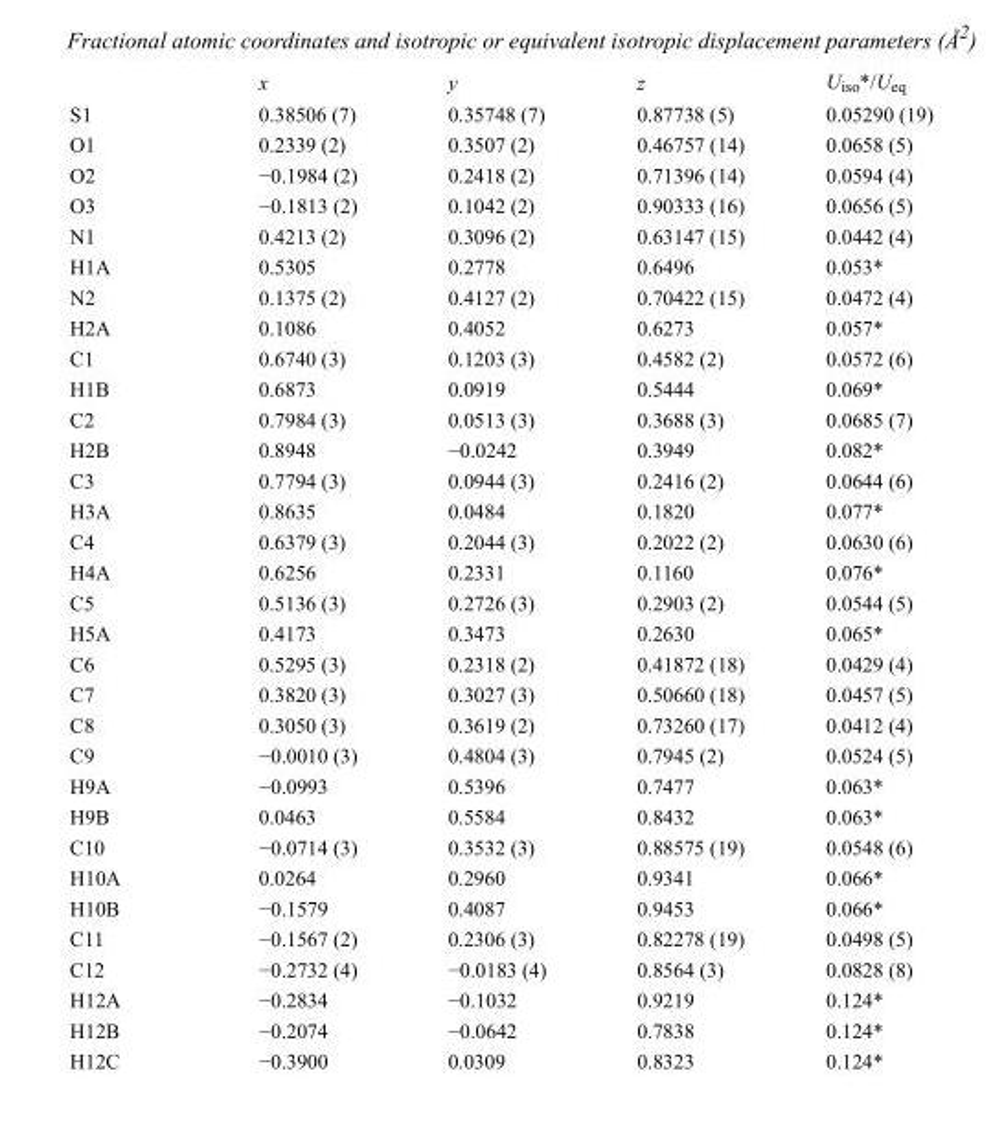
<table><thead><tr><td></td><td>x</td><td>y</td><td>z</td><td>U<sub>iso</sub>*/U<sub>eq</sub></td></tr></thead><tbody><tr><td>S1</td><td>0.38506 (7)</td><td>0.35748 (7)</td><td>0.87738 (5)</td><td>0.05290 (19)</td></tr><tr><td>O1</td><td>0.2339 (2)</td><td>0.3507 (2)</td><td>0.46757 (14)</td><td>0.0658 (5)</td></tr><tr><td>O2</td><td>−0.1984 (2)</td><td>0.2418 (2)</td><td>0.71396 (14)</td><td>0.0594 (4)</td></tr><tr><td>O3</td><td>−0.1813 (2)</td><td>0.1042 (2)</td><td>0.90333 (16)</td><td>0.0656 (5)</td></tr><tr><td>N1</td><td>0.4213 (2)</td><td>0.3096 (2)</td><td>0.63147 (15)</td><td>0.0442 (4)</td></tr><tr><td>H1A</td><td>0.5305</td><td>0.2778</td><td>0.6496</td><td>0.053*</td></tr><tr><td>N2</td><td>0.1375 (2)</td><td>0.4127 (2)</td><td>0.70422 (15)</td><td>0.0472 (4)</td></tr><tr><td>H2A</td><td>0.1086</td><td>0.4052</td><td>0.6273</td><td>0.057*</td></tr><tr><td>C1</td><td>0.6740 (3)</td><td>0.1203 (3)</td><td>0.4582 (2)</td><td>0.0572 (6)</td></tr><tr><td>H1B</td><td>0.6873</td><td>0.0919</td><td>0.5444</td><td>0.069*</td></tr><tr><td>C2</td><td>0.7984 (3)</td><td>0.0513 (3)</td><td>0.3688 (3)</td><td>0.0685 (7)</td></tr><tr><td>H2B</td><td>0.8948</td><td>−0.0242</td><td>0.3949</td><td>0.082*</td></tr><tr><td>C3</td><td>0.7794 (3)</td><td>0.0944 (3)</td><td>0.2416 (2)</td><td>0.0644 (6)</td></tr><tr><td>H3A</td><td>0.8635</td><td>0.0484</td><td>0.1820</td><td>0.077*</td></tr><tr><td>C4</td><td>0.6379 (3)</td><td>0.2044 (3)</td><td>0.2022 (2)</td><td>0.0630 (6)</td></tr><tr><td>H4A</td><td>0.6256</td><td>0.2331</td><td>0.1160</td><td>0.076*</td></tr><tr><td>C5</td><td>0.5136 (3)</td><td>0.2726 (3)</td><td>0.2903 (2)</td><td>0.0544 (5)</td></tr><tr><td>H5A</td><td>0.4173</td><td>0.3473</td><td>0.2630</td><td>0.065*</td></tr><tr><td>C6</td><td>0.5295 (3)</td><td>0.2318 (2)</td><td>0.41872 (18)</td><td>0.0429 (4)</td></tr><tr><td>C7</td><td>0.3820 (3)</td><td>0.3027 (3)</td><td>0.50660 (18)</td><td>0.0457 (5)</td></tr><tr><td>C8</td><td>0.3050 (3)</td><td>0.3619 (2)</td><td>0.73260 (17)</td><td>0.0412 (4)</td></tr><tr><td>C9</td><td>−0.0010 (3)</td><td>0.4804 (3)</td><td>0.7945 (2)</td><td>0.0524 (5)</td></tr><tr><td>H9A</td><td>−0.0993</td><td>0.5396</td><td>0.7477</td><td>0.063*</td></tr><tr><td>H9B</td><td>0.0463</td><td>0.5584</td><td>0.8432</td><td>0.063*</td></tr><tr><td>C10</td><td>−0.0714 (3)</td><td>0.3532 (3)</td><td>0.88575 (19)</td><td>0.0548 (6)</td></tr><tr><td>H10A</td><td>0.0264</td><td>0.2960</td><td>0.9341</td><td>0.066*</td></tr><tr><td>H10B</td><td>−0.1579</td><td>0.4087</td><td>0.9453</td><td>0.066*</td></tr><tr><td>C11</td><td>−0.1567 (2)</td><td>0.2306 (3)</td><td>0.82278 (19)</td><td>0.0498 (5)</td></tr><tr><td>C12</td><td>−0.2732 (4)</td><td>−0.0183 (4)</td><td>0.8564 (3)</td><td>0.0828 (8)</td></tr><tr><td>H12A</td><td>−0.2834</td><td>−0.1032</td><td>0.9219</td><td>0.124*</td></tr><tr><td>H12B</td><td>−0.2074</td><td>−0.0642</td><td>0.7838</td><td>0.124*</td></tr><tr><td>H12C</td><td>−0.3900</td><td>0.0309</td><td>0.8323</td><td>0.124*</td></tr></tbody></table>